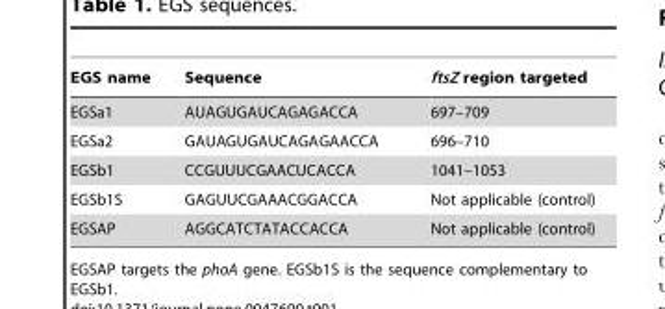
<table><thead><tr><td>EGS name</td><td>Sequence</td><td>ftsZ region targeted</td></tr></thead><tbody><tr><td>EGSa1</td><td>AUAGUGAUCAGAGACCA</td><td>697–709</td></tr><tr><td>EGSa2</td><td>GAUAGUGAUCAGAGAACCA</td><td>696–710</td></tr><tr><td>EGSb1</td><td>CCGUUUCGAACUCACCA</td><td>1041–1053</td></tr><tr><td>EGSb1S</td><td>GAGUUCGAAACGGACCA</td><td>Not applicable (control)</td></tr><tr><td>EGSAP</td><td>AGGCATCTATACCACCA</td><td>Not applicable (control)</td></tr></tbody></table>